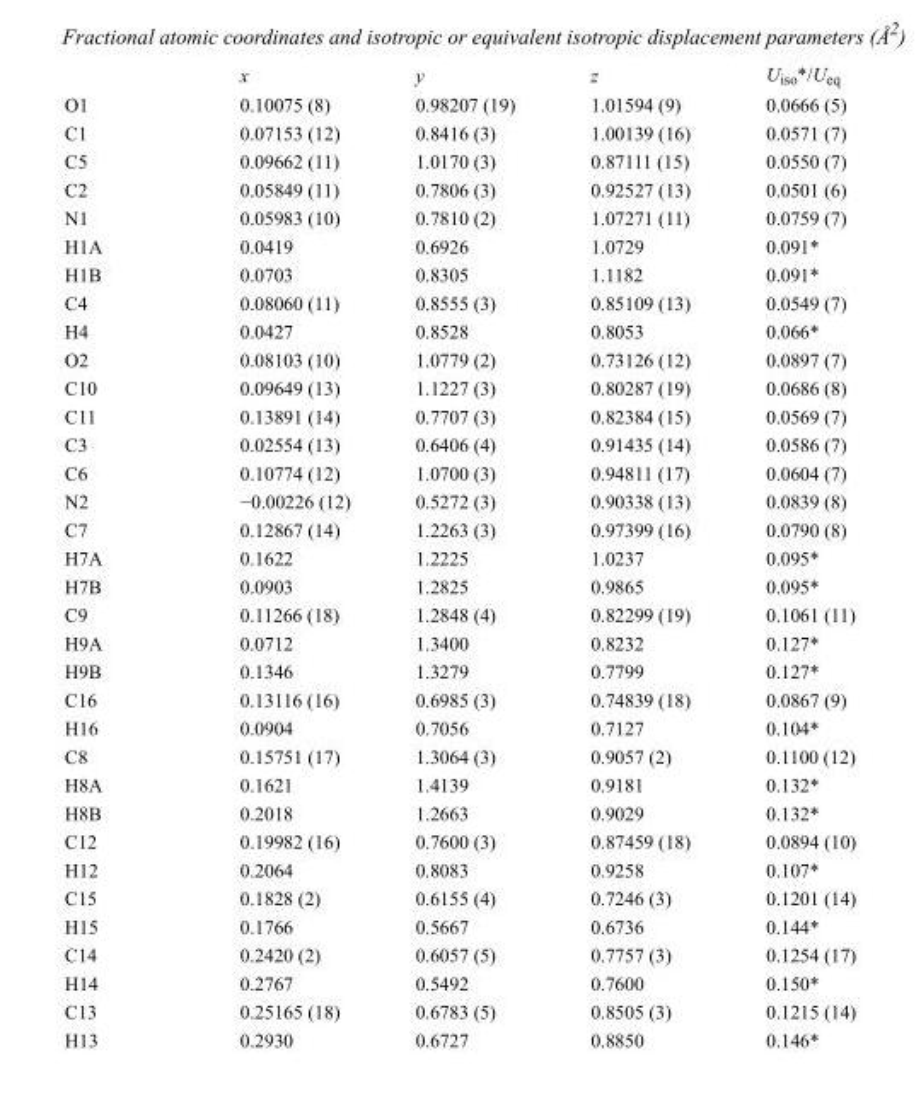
<table><thead><tr><td></td><td>x</td><td>y</td><td>z</td><td>U<sub>iso</sub>*/U<sub>eq</sub></td></tr></thead><tbody><tr><td>O1</td><td>0.10075 (8)</td><td>0.98207 (19)</td><td>1.01594 (9)</td><td>0.0666 (5)</td></tr><tr><td>C1</td><td>0.07153 (12)</td><td>0.8416 (3)</td><td>1.00139 (16)</td><td>0.0571 (7)</td></tr><tr><td>C5</td><td>0.09662 (11)</td><td>1.0170 (3)</td><td>0.87111 (15)</td><td>0.0550 (7)</td></tr><tr><td>C2</td><td>0.05849 (11)</td><td>0.7806 (3)</td><td>0.92527 (13)</td><td>0.0501 (6)</td></tr><tr><td>N1</td><td>0.05983 (10)</td><td>0.7810 (2)</td><td>1.07271 (11)</td><td>0.0759 (7)</td></tr><tr><td>H1A</td><td>0.0419</td><td>0.6926</td><td>1.0729</td><td>0.091*</td></tr><tr><td>H1B</td><td>0.0703</td><td>0.8305</td><td>1.1182</td><td>0.091*</td></tr><tr><td>C4</td><td>0.08060 (11)</td><td>0.8555 (3)</td><td>0.85109 (13)</td><td>0.0549 (7)</td></tr><tr><td>H4</td><td>0.0427</td><td>0.8528</td><td>0.8053</td><td>0.066*</td></tr><tr><td>O2</td><td>0.08103 (10)</td><td>1.0779 (2)</td><td>0.73126 (12)</td><td>0.0897 (7)</td></tr><tr><td>C10</td><td>0.09649 (13)</td><td>1.1227 (3)</td><td>0.80287 (19)</td><td>0.0686 (8)</td></tr><tr><td>C11</td><td>0.13891 (14)</td><td>0.7707 (3)</td><td>0.82384 (15)</td><td>0.0569 (7)</td></tr><tr><td>C3</td><td>0.02554 (13)</td><td>0.6406 (4)</td><td>0.91435 (14)</td><td>0.0586 (7)</td></tr><tr><td>C6</td><td>0.10774 (12)</td><td>1.0700 (3)</td><td>0.94811 (17)</td><td>0.0604 (7)</td></tr><tr><td>N2</td><td>−0.00226 (12)</td><td>0.5272 (3)</td><td>0.90338 (13)</td><td>0.0839 (8)</td></tr><tr><td>C7</td><td>0.12867 (14)</td><td>1.2263 (3)</td><td>0.97399 (16)</td><td>0.0790 (8)</td></tr><tr><td>H7A</td><td>0.1622</td><td>1.2225</td><td>1.0237</td><td>0.095*</td></tr><tr><td>H7B</td><td>0.0903</td><td>1.2825</td><td>0.9865</td><td>0.095*</td></tr><tr><td>C9</td><td>0.11266 (18)</td><td>1.2848 (4)</td><td>0.82299 (19)</td><td>0.1061 (11)</td></tr><tr><td>H9A</td><td>0.0712</td><td>1.3400</td><td>0.8232</td><td>0.127*</td></tr><tr><td>H9B</td><td>0.1346</td><td>1.3279</td><td>0.7799</td><td>0.127*</td></tr><tr><td>C16</td><td>0.13116 (16)</td><td>0.6985 (3)</td><td>0.74839 (18)</td><td>0.0867 (9)</td></tr><tr><td>H16</td><td>0.0904</td><td>0.7056</td><td>0.7127</td><td>0.104*</td></tr><tr><td>C8</td><td>0.15751 (17)</td><td>1.3064 (3)</td><td>0.9057 (2)</td><td>0.1100 (12)</td></tr><tr><td>H8A</td><td>0.1621</td><td>1.4139</td><td>0.9181</td><td>0.132*</td></tr><tr><td>H8B</td><td>0.2018</td><td>1.2663</td><td>0.9029</td><td>0.132*</td></tr><tr><td>C12</td><td>0.19982 (16)</td><td>0.7600 (3)</td><td>0.87459 (18)</td><td>0.0894 (10)</td></tr><tr><td>H12</td><td>0.2064</td><td>0.8083</td><td>0.9258</td><td>0.107*</td></tr><tr><td>C15</td><td>0.1828 (2)</td><td>0.6155 (4)</td><td>0.7246 (3)</td><td>0.1201 (14)</td></tr><tr><td>H15</td><td>0.1766</td><td>0.5667</td><td>0.6736</td><td>0.144*</td></tr><tr><td>C14</td><td>0.2420 (2)</td><td>0.6057 (5)</td><td>0.7757 (3)</td><td>0.1254 (17)</td></tr><tr><td>H14</td><td>0.2767</td><td>0.5492</td><td>0.7600</td><td>0.150*</td></tr><tr><td>C13</td><td>0.25165 (18)</td><td>0.6783 (5)</td><td>0.8505 (3)</td><td>0.1215 (14)</td></tr><tr><td>H13</td><td>0.2930</td><td>0.6727</td><td>0.8850</td><td>0.146*</td></tr></tbody></table>